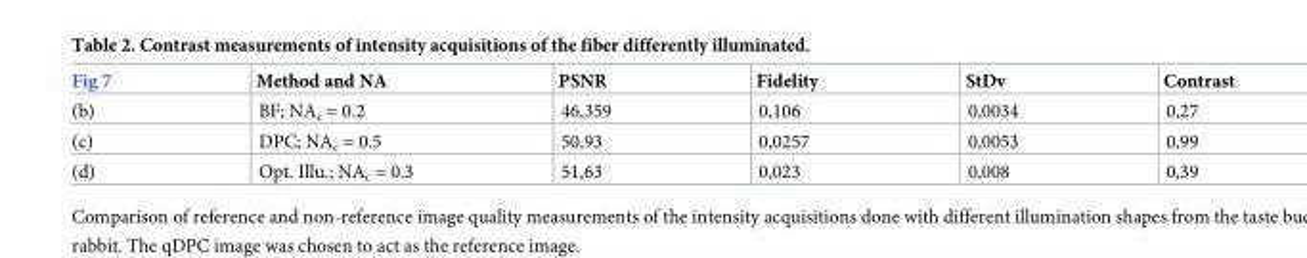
<table><thead><tr><td>Fig 7</td><td>Method and NA</td><td>PSNR</td><td>Fidelity</td><td>StDv</td><td>Contrast</td></tr></thead><tbody><tr><td>(b)</td><td>BF; NA<sub>c</sub> = 0.2</td><td>46,359</td><td>0,106</td><td>0,0034</td><td>0,27</td></tr><tr><td>(c)</td><td>DPC; NA<sub>c</sub> = 0.5</td><td>50,93</td><td>0,0257</td><td>0,0053</td><td>0,99</td></tr><tr><td>(d)</td><td>Opt. Illu.; NA<sub>c</sub> = 0.3</td><td>51,63</td><td>0,023</td><td>0,008</td><td>0,39</td></tr></tbody></table>